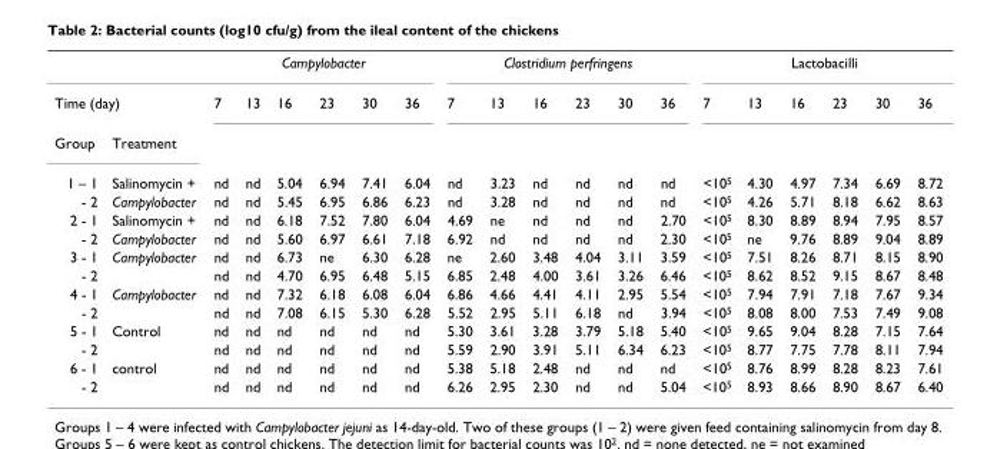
<table><thead><tr><td></td><td></td><td colspan="6">Campylobacter</td><td colspan="6">Clostridium perfringens</td><td colspan="6">Lactobacilli</td></tr><tr><td colspan="2">Time (day)</td><td>7</td><td>13</td><td>16</td><td>23</td><td>30</td><td>36</td><td>7</td><td>13</td><td>16</td><td>23</td><td>30</td><td>36</td><td>7</td><td>13</td><td>16</td><td>23</td><td>30</td><td>36</td></tr></thead><tbody><tr><td>Group</td><td>Treatment</td><td></td><td></td><td></td><td></td><td></td><td></td><td></td><td></td><td></td><td></td><td></td><td></td><td></td><td></td><td></td><td></td><td></td><td></td></tr><tr><td>1 – 1</td><td>Salinomycin +</td><td>nd</td><td>nd</td><td>5.04</td><td>6.94</td><td>7.41</td><td>6.04</td><td>nd</td><td>3.23</td><td>nd</td><td>nd</td><td>nd</td><td>nd</td><td>&lt;10<sup>5</sup></td><td>4.30</td><td>4.97</td><td>7.34</td><td>6.69</td><td>8.72</td></tr><tr><td>- 2</td><td>Campylobacter</td><td>nd</td><td>nd</td><td>5.45</td><td>6.95</td><td>6.86</td><td>6.23</td><td>nd</td><td>3.28</td><td>nd</td><td>nd</td><td>nd</td><td>nd</td><td>&lt;10<sup>5</sup></td><td>4.26</td><td>5.71</td><td>8.18</td><td>6.62</td><td>8.63</td></tr><tr><td>2 - 1</td><td>Salinomycin +</td><td>nd</td><td>nd</td><td>6.18</td><td>7.52</td><td>7.80</td><td>6.04</td><td>4.69</td><td>ne</td><td>nd</td><td>nd</td><td>nd</td><td>2.70</td><td>&lt;10<sup>5</sup></td><td>8.30</td><td>8.89</td><td>8.94</td><td>7.95</td><td>8.57</td></tr><tr><td>- 2</td><td>Campylobacter</td><td>nd</td><td>nd</td><td>5.60</td><td>6.97</td><td>6.61</td><td>7.18</td><td>6.92</td><td>nd</td><td>nd</td><td>nd</td><td>nd</td><td>2.30</td><td>&lt;10<sup>5</sup></td><td>ne</td><td>9.76</td><td>8.89</td><td>9.04</td><td>8.89</td></tr><tr><td>3 - 1</td><td>Campylobacter</td><td>nd</td><td>nd</td><td>6.73</td><td>ne</td><td>6.30</td><td>6.28</td><td>ne</td><td>2.60</td><td>3.48</td><td>4.04</td><td>3.11</td><td>3.59</td><td>&lt;10<sup>5</sup></td><td>7.51</td><td>8.26</td><td>8.71</td><td>8.15</td><td>8.90</td></tr><tr><td>- 2</td><td></td><td>nd</td><td>nd</td><td>4.70</td><td>6.95</td><td>6.48</td><td>5.15</td><td>6.85</td><td>2.48</td><td>4.00</td><td>3.61</td><td>3.26</td><td>6.46</td><td>&lt;10<sup>5</sup></td><td>8.62</td><td>8.52</td><td>9.15</td><td>8.67</td><td>8.48</td></tr><tr><td>4 - 1</td><td>Campylobacter</td><td>nd</td><td>nd</td><td>7.32</td><td>6.18</td><td>6.08</td><td>6.04</td><td>6.86</td><td>4.66</td><td>4.41</td><td>4.11</td><td>2.95</td><td>5.54</td><td>&lt;10<sup>5</sup></td><td>7.94</td><td>7.91</td><td>7.18</td><td>7.67</td><td>9.34</td></tr><tr><td>- 2</td><td></td><td>nd</td><td>nd</td><td>7.08</td><td>6.15</td><td>5.30</td><td>6.28</td><td>5.52</td><td>2.95</td><td>5.11</td><td>6.18</td><td>nd</td><td>3.94</td><td>&lt;10<sup>5</sup></td><td>8.08</td><td>8.00</td><td>7.53</td><td>7.49</td><td>9.08</td></tr><tr><td>5 - 1</td><td>Control</td><td>nd</td><td>nd</td><td>nd</td><td>nd</td><td>nd</td><td>nd</td><td>5.30</td><td>3.61</td><td>3.28</td><td>3.79</td><td>5.18</td><td>5.40</td><td>&lt;10<sup>5</sup></td><td>9.65</td><td>9.04</td><td>8.28</td><td>7.15</td><td>7.64</td></tr><tr><td>- 2</td><td></td><td>nd</td><td>nd</td><td>nd</td><td>nd</td><td>nd</td><td>nd</td><td>5.59</td><td>2.90</td><td>3.91</td><td>5.11</td><td>6.34</td><td>6.23</td><td>&lt;10<sup>5</sup></td><td>8.77</td><td>7.75</td><td>7.78</td><td>8.11</td><td>7.94</td></tr><tr><td>6 - 1</td><td>control</td><td>nd</td><td>nd</td><td>nd</td><td>nd</td><td>nd</td><td>nd</td><td>5.38</td><td>5.18</td><td>2.48</td><td>nd</td><td>nd</td><td>nd</td><td>&lt;10<sup>5</sup></td><td>8.76</td><td>8.99</td><td>8.28</td><td>8.23</td><td>7.61</td></tr><tr><td>- 2</td><td></td><td>nd</td><td>nd</td><td>nd</td><td>nd</td><td>nd</td><td>nd</td><td>6.26</td><td>2.95</td><td>2.30</td><td>nd</td><td>nd</td><td>5.04</td><td>&lt;10<sup>5</sup></td><td>8.93</td><td>8.66</td><td>8.90</td><td>8.67</td><td>6.40</td></tr></tbody></table>